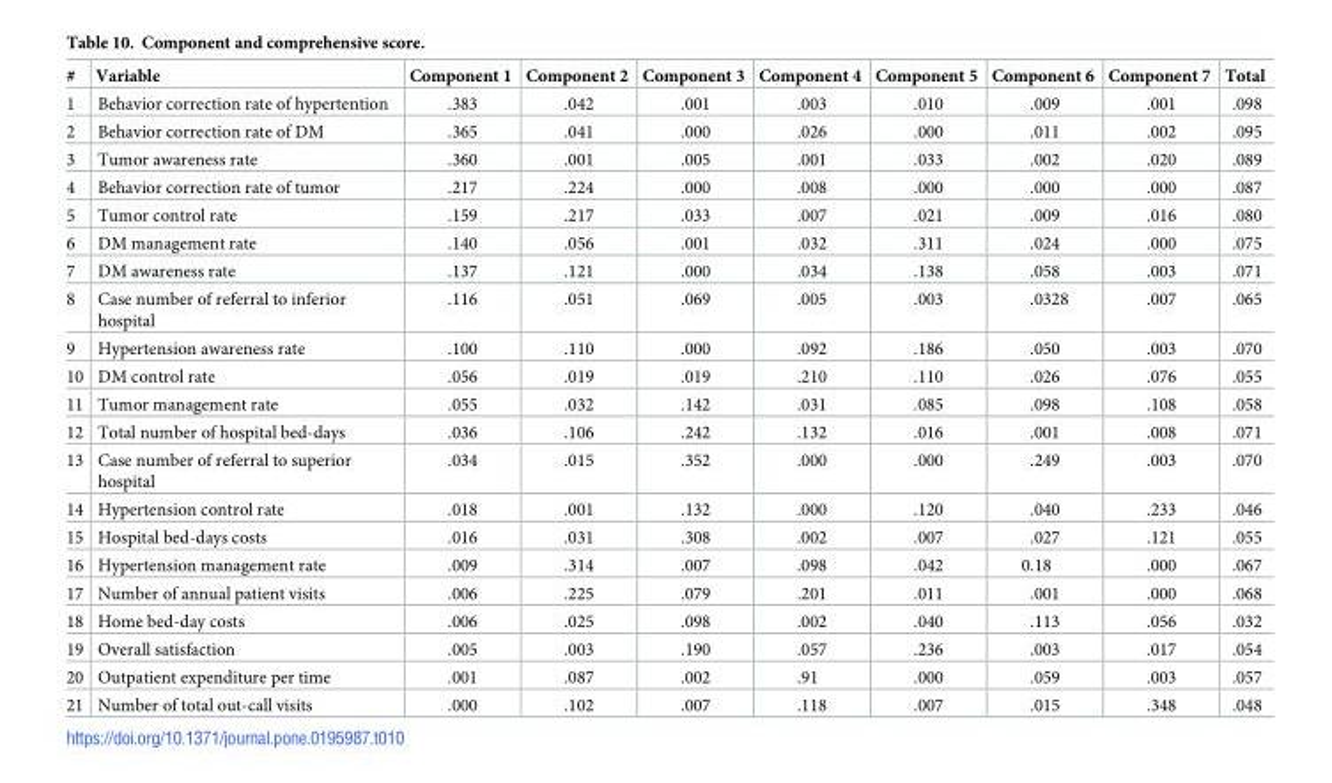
<table><thead><tr><td>#</td><td>Variable</td><td>Component 1</td><td>Component 2</td><td>Component 3</td><td>Component 4</td><td>Component 5</td><td>Component 6</td><td>Component 7</td><td>Total</td></tr></thead><tbody><tr><td>1</td><td>Behavior correction rate of hypertention</td><td>.383</td><td>.042</td><td>.001</td><td>.003</td><td>.010</td><td>.009</td><td>.001</td><td>.098</td></tr><tr><td>2</td><td>Behavior correction rate of DM</td><td>.365</td><td>.041</td><td>.000</td><td>.026</td><td>.000</td><td>.011</td><td>.002</td><td>.095</td></tr><tr><td>3</td><td>Tumor awareness rate</td><td>.360</td><td>.001</td><td>.005</td><td>.001</td><td>.033</td><td>.002</td><td>.020</td><td>.089</td></tr><tr><td>4</td><td>Behavior correction rate of tumor</td><td>.217</td><td>.224</td><td>.000</td><td>.008</td><td>.000</td><td>.000</td><td>.000</td><td>.087</td></tr><tr><td>5</td><td>Tumor control rate</td><td>.159</td><td>.217</td><td>.033</td><td>.007</td><td>.021</td><td>.009</td><td>.016</td><td>.080</td></tr><tr><td>6</td><td>DM management rate</td><td>.140</td><td>.056</td><td>.001</td><td>.032</td><td>.311</td><td>.024</td><td>.000</td><td>.075</td></tr><tr><td>7</td><td>DM awareness rate</td><td>.137</td><td>.121</td><td>.000</td><td>.034</td><td>.138</td><td>.058</td><td>.003</td><td>.071</td></tr><tr><td>8</td><td>Case number of referral to inferior hospital</td><td>.116</td><td>.051</td><td>.069</td><td>.005</td><td>.003</td><td>.0328</td><td>.007</td><td>.065</td></tr><tr><td>9</td><td>Hypertension awareness rate</td><td>.100</td><td>.110</td><td>.000</td><td>.092</td><td>.186</td><td>.050</td><td>.003</td><td>.070</td></tr><tr><td>10</td><td>DM control rate</td><td>.056</td><td>.019</td><td>.019</td><td>.210</td><td>.110</td><td>.026</td><td>.076</td><td>.055</td></tr><tr><td>11</td><td>Tumor management rate</td><td>.055</td><td>.032</td><td>.142</td><td>.031</td><td>.085</td><td>.098</td><td>.108</td><td>.058</td></tr><tr><td>12</td><td>Total number of hospital bed-days</td><td>.036</td><td>.106</td><td>.242</td><td>.132</td><td>.016</td><td>.001</td><td>.008</td><td>.071</td></tr><tr><td>13</td><td>Case number of referral to superior hospital</td><td>.034</td><td>.015</td><td>.352</td><td>.000</td><td>.000</td><td>.249</td><td>.003</td><td>.070</td></tr><tr><td>14</td><td>Hypertension control rate</td><td>.018</td><td>.001</td><td>.132</td><td>.000</td><td>.120</td><td>.040</td><td>.233</td><td>.046</td></tr><tr><td>15</td><td>Hospital bed-days costs</td><td>.016</td><td>.031</td><td>.308</td><td>.002</td><td>.007</td><td>.027</td><td>.121</td><td>.055</td></tr><tr><td>16</td><td>Hypertension management rate</td><td>.009</td><td>.314</td><td>.007</td><td>.098</td><td>.042</td><td>0.18</td><td>.000</td><td>.067</td></tr><tr><td>17</td><td>Number of annual patient visits</td><td>.006</td><td>.225</td><td>.079</td><td>.201</td><td>.011</td><td>.001</td><td>.000</td><td>.068</td></tr><tr><td>18</td><td>Home bed-day costs</td><td>.006</td><td>.025</td><td>.098</td><td>.002</td><td>.040</td><td>.113</td><td>.056</td><td>.032</td></tr><tr><td>19</td><td>Overall satisfaction</td><td>.005</td><td>.003</td><td>.190</td><td>.057</td><td>.236</td><td>.003</td><td>.017</td><td>.054</td></tr><tr><td>20</td><td>Outpatient expenditure per time</td><td>.001</td><td>.087</td><td>.002</td><td>.91</td><td>.000</td><td>.059</td><td>.003</td><td>.057</td></tr><tr><td>21</td><td>Number of total out-call visits</td><td>.000</td><td>.102</td><td>.007</td><td>.118</td><td>.007</td><td>.015</td><td>.348</td><td>.048</td></tr></tbody></table>